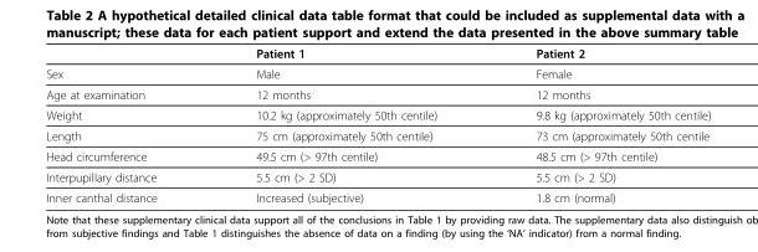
<table><thead><tr><td></td><td>Patient 1</td><td>Patient 2</td></tr></thead><tbody><tr><td>Sex</td><td>Male</td><td>Female</td></tr><tr><td>Age at examination</td><td>12 months</td><td>12 months</td></tr><tr><td>Weight</td><td>10.2 kg (approximately 50th centile)</td><td>9.8 kg (approximately 50th centile)</td></tr><tr><td>Length</td><td>75 cm (approximately 50th centile)</td><td>73 cm (approximately 50th centile</td></tr><tr><td>Head circumference</td><td>49.5 cm (&gt; 97th centile)</td><td>48.5 cm (&gt; 97th centile)</td></tr><tr><td>Interpupillary distance</td><td>5.5 cm (&gt; 2 SD)</td><td>5.5 cm (&gt; 2 SD)</td></tr><tr><td>Inner canthal distance</td><td>Increased (subjective)</td><td>1.8 cm (normal)</td></tr></tbody></table>